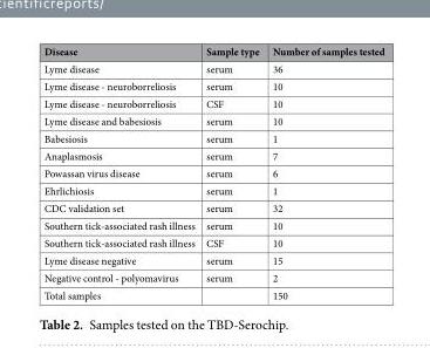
<table><thead><tr><td>Disease</td><td>Sample type</td><td>Number of samples tested</td></tr></thead><tbody><tr><td>Lyme disease</td><td>serum</td><td>36</td></tr><tr><td>Lyme disease - neuroborreliosis</td><td>serum</td><td>10</td></tr><tr><td>Lyme disease - neuroborreliosis</td><td>CSF</td><td>10</td></tr><tr><td>Lyme disease and babesiosis</td><td>serum</td><td>10</td></tr><tr><td>Babesiosis</td><td>serum</td><td>1</td></tr><tr><td>Anaplasmosis</td><td>serum</td><td>7</td></tr><tr><td>Powassan virus disease</td><td>serum</td><td>6</td></tr><tr><td>Ehrlichiosis</td><td>serum</td><td>1</td></tr><tr><td>CDC validation set</td><td>serum</td><td>32</td></tr><tr><td>Southern tick-associated rash illness</td><td>serum</td><td>10</td></tr><tr><td>Southern tick-associated rash illness</td><td>CSF</td><td>10</td></tr><tr><td>Lyme disease negative</td><td>serum</td><td>15</td></tr><tr><td>Negative control - polyomavirus</td><td>serum</td><td>2</td></tr><tr><td>Total samples</td><td></td><td>150</td></tr></tbody></table>